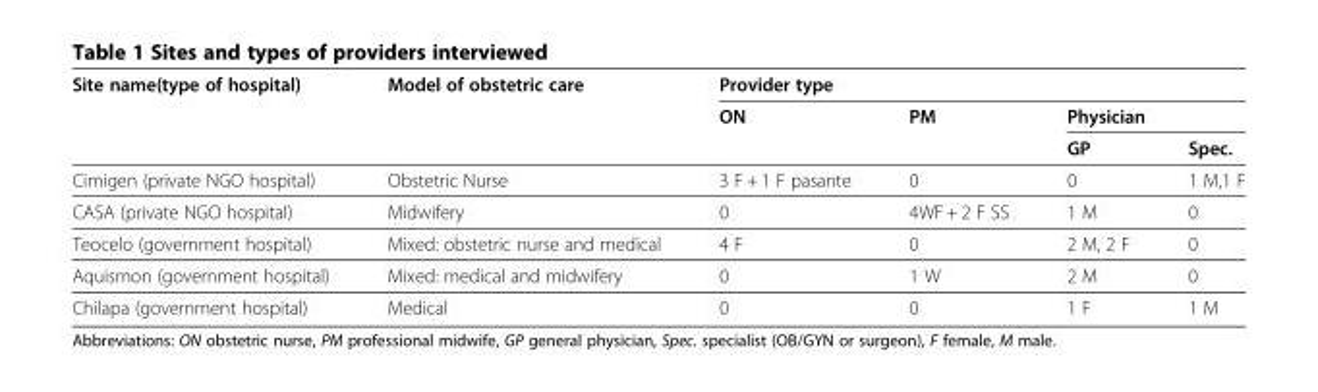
<table><thead><tr><td rowspan="3">Site name(type of hospital)</td><td rowspan="3">Model of obstetric care</td><td colspan="4">Provider type</td></tr><tr><td rowspan="2">ON</td><td rowspan="2">PM</td><td colspan="2">Physician</td></tr><tr><td>GP</td><td>Spec.</td></tr></thead><tbody><tr><td>Cimigen (private NGO hospital)</td><td>Obstetric Nurse</td><td>3 F + 1 F pasante</td><td>0</td><td>0</td><td>1 M,1 F</td></tr><tr><td>CASA (private NGO hospital)</td><td>Midwifery</td><td>0</td><td>4WF + 2 F SS</td><td>1 M</td><td>0</td></tr><tr><td>Teocelo (government hospital)</td><td>Mixed: obstetric nurse and medical</td><td>4 F</td><td>0</td><td>2 M, 2 F</td><td>0</td></tr><tr><td>Aquismon (government hospital)</td><td>Mixed: medical and midwifery</td><td>0</td><td>1 W</td><td>2 M</td><td>0</td></tr><tr><td>Chilapa (government hospital)</td><td>Medical</td><td>0</td><td>0</td><td>1 F</td><td>1 M</td></tr></tbody></table>